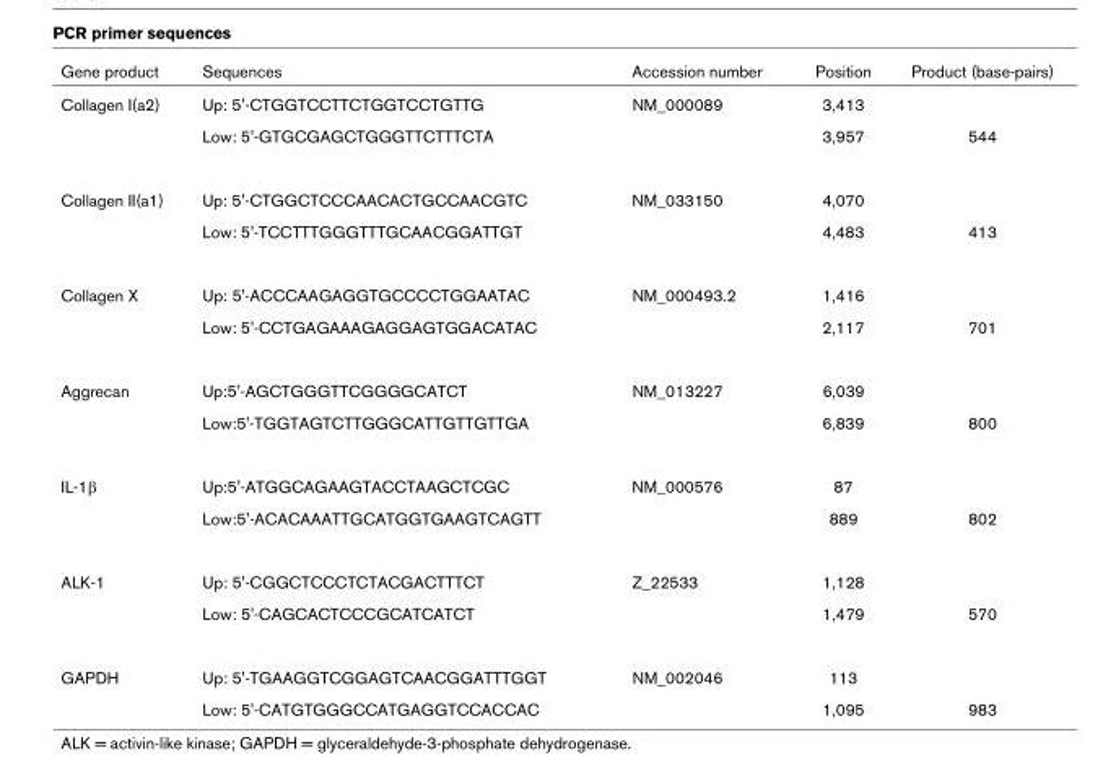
<table><thead><tr><td>Gene product</td><td>Sequences</td><td>Accession number</td><td>Position</td><td>Product (base-pairs)</td></tr></thead><tbody><tr><td rowspan="2">Collagen I(a2)</td><td>Up: 5&#x27;-CTGGTCCTTCTGGTCCTGTTG</td><td>NM_000089</td><td>3,413</td><td></td></tr><tr><td>Low: 5&#x27;-GTGCGAGCTGGGTTCTTTCTA</td><td></td><td>3,957</td><td>544</td></tr><tr><td rowspan="2">Collagen II(a1)</td><td>Up: 5&#x27;-CTGGCTCCCAACACTGCCAACGTC</td><td>NM_033150</td><td>4,070</td><td></td></tr><tr><td>Low: 5&#x27;-TCCTTTGGGTTTGCAACGGATTGT</td><td></td><td>4,483</td><td>413</td></tr><tr><td rowspan="2">Collagen X</td><td>Up: 5&#x27;-ACCCAAGAGGTGCCCCTGGAATAC</td><td>NM_000493.2</td><td>1,416</td><td></td></tr><tr><td>Low: 5&#x27;-CCTGAGAAAGAGGAGTGGACATAC</td><td></td><td>2,117</td><td>701</td></tr><tr><td rowspan="2">Aggrecan</td><td>Up:5&#x27;-AGCTGGGTTCGGGGCATCT</td><td>NM_013227</td><td>6,039</td><td></td></tr><tr><td>Low:5&#x27;-TGGTAGTCTTGGGCATTGTTGTTGA</td><td></td><td>6,839</td><td>800</td></tr><tr><td rowspan="2">IL-1β</td><td>Up:5&#x27;-ATGGCAGAAGTACCTAAGCTCGC</td><td>NM_000576</td><td>87</td><td></td></tr><tr><td>Low:5&#x27;-ACACAAATTGCATGGTGAAGTCAGTT</td><td></td><td>889</td><td>802</td></tr><tr><td rowspan="2">ALK-1</td><td>Up: 5&#x27;-CGGCTCCCTCTACGACTTTCT</td><td>Z_22533</td><td>1,128</td><td></td></tr><tr><td>Low: 5&#x27;-CAGCACTCCCGCATCATCT</td><td></td><td>1,479</td><td>570</td></tr><tr><td rowspan="2">GAPDH</td><td>Up: 5&#x27;-TGAAGGTCGGAGTCAACGGATTTGGT</td><td>NM_002046</td><td>113</td><td></td></tr><tr><td>Low: 5&#x27;-CATGTGGGCCATGAGGTCCACCAC</td><td></td><td>1,095</td><td>983</td></tr></tbody></table>